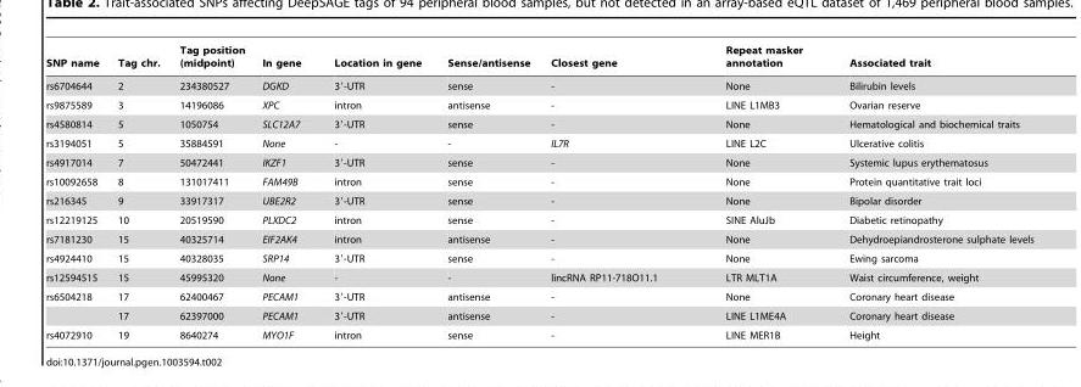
<table><thead><tr><td>SNP name</td><td>Tag chr.</td><td>Tag position (midpoint)</td><td>In gene</td><td>Location in gene</td><td>Sense/antisense</td><td>Closest gene</td><td>Repeat masker annotation</td><td>Associated trait</td></tr></thead><tbody><tr><td>rs6704644</td><td>2</td><td>234380527</td><td>DGKD</td><td>3′-UTR</td><td>sense</td><td>-</td><td>None</td><td>Bilirubin levels</td></tr><tr><td>rs9875589</td><td>3</td><td>14196086</td><td>XPC</td><td>intron</td><td>antisense</td><td>-</td><td>LINE L1MB3</td><td>Ovarian reserve</td></tr><tr><td>rs4580814</td><td>5</td><td>1050754</td><td>SLC12A7</td><td>3′-UTR</td><td>sense</td><td>-</td><td>None</td><td>Hematological and biochemical traits</td></tr><tr><td>rs3194051</td><td>5</td><td>35884591</td><td>None</td><td>-</td><td>-</td><td>IL7R</td><td>LINE L2C</td><td>Ulcerative colitis</td></tr><tr><td>rs4917014</td><td>7</td><td>50472441</td><td>IKZF1</td><td>3′-UTR</td><td>sense</td><td>-</td><td>None</td><td>Systemic lupus erythematosus</td></tr><tr><td>rs10092658</td><td>8</td><td>131017411</td><td>FAM49B</td><td>intron</td><td>sense</td><td>-</td><td>None</td><td>Protein quantitative trait loci</td></tr><tr><td>rs216345</td><td>9</td><td>33917317</td><td>UBE2R2</td><td>3′-UTR</td><td>sense</td><td>-</td><td>None</td><td>Bipolar disorder</td></tr><tr><td>rs12219125</td><td>10</td><td>20519590</td><td>PLXDC2</td><td>intron</td><td>sense</td><td>-</td><td>SINE AluJb</td><td>Diabetic retinopathy</td></tr><tr><td>rs7181230</td><td>15</td><td>40325714</td><td>EIF2AK4</td><td>intron</td><td>antisense</td><td>-</td><td>None</td><td>Dehydroepiandrosterone sulphate levels</td></tr><tr><td>rs4924410</td><td>15</td><td>40328035</td><td>SRP14</td><td>3′-UTR</td><td>sense</td><td>-</td><td>None</td><td>Ewing sarcoma</td></tr><tr><td>rs12594515</td><td>15</td><td>45995320</td><td>None</td><td>-</td><td>-</td><td>lincRNA RP11-718O11.1</td><td>LTR MLT1A</td><td>Waist circumference, weight</td></tr><tr><td rowspan="2">rs6504218</td><td>17</td><td>62400467</td><td>PECAM1</td><td>3′-UTR</td><td>antisense</td><td>-</td><td>None</td><td>Coronary heart disease</td></tr><tr><td>17</td><td>62397000</td><td>PECAM1</td><td>3′-UTR</td><td>antisense</td><td>-</td><td>LINE L1ME4A</td><td>Coronary heart disease</td></tr><tr><td>rs4072910</td><td>19</td><td>8640274</td><td>MYO1F</td><td>intron</td><td>sense</td><td>-</td><td>LINE MER1B</td><td>Height</td></tr></tbody></table>